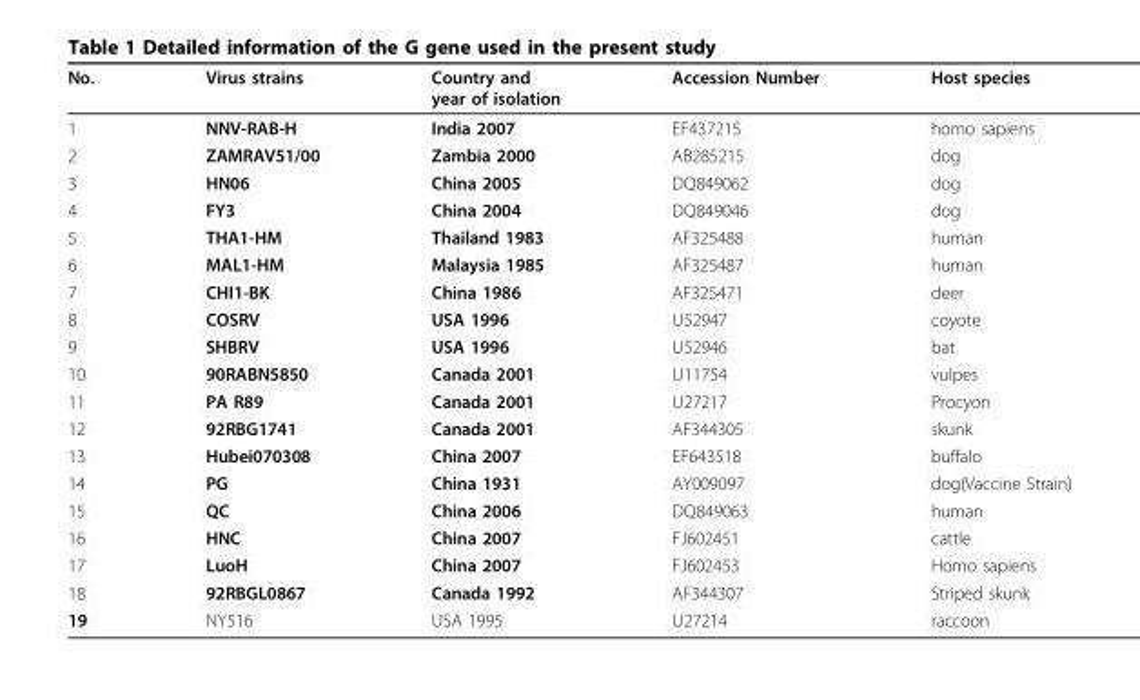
<table><thead><tr><td>No.</td><td>Virus strains</td><td>Country and year of isolation</td><td>Accession Number</td><td>Host species</td></tr></thead><tbody><tr><td>1</td><td>NNV-RAB-H</td><td>India 2007</td><td>EF437215</td><td>homo sapiens</td></tr><tr><td>2</td><td>ZAMRAV51/00</td><td>Zambia 2000</td><td>AB285215</td><td>dog</td></tr><tr><td>3</td><td>HN06</td><td>China 2005</td><td>DQ849062</td><td>dog</td></tr><tr><td>4</td><td>FY3</td><td>China 2004</td><td>DQ849046</td><td>dog</td></tr><tr><td>5</td><td>THA1-HM</td><td>Thailand 1983</td><td>AF325488</td><td>human</td></tr><tr><td>6</td><td>MAL1-HM</td><td>Malaysia 1985</td><td>AF325487</td><td>human</td></tr><tr><td>7</td><td>CHI1-BK</td><td>China 1986</td><td>AF325471</td><td>deer</td></tr><tr><td>8</td><td>COSRV</td><td>USA 1996</td><td>U52947</td><td>coyote</td></tr><tr><td>9</td><td>SHBRV</td><td>USA 1996</td><td>U52946</td><td>bat</td></tr><tr><td>10</td><td>90RABN5850</td><td>Canada 2001</td><td>U11754</td><td>vulpes</td></tr><tr><td>11</td><td>PA R89</td><td>Canada 2001</td><td>U27217</td><td>Procyon</td></tr><tr><td>12</td><td>92RBG1741</td><td>Canada 2001</td><td>AF344305</td><td>skunk</td></tr><tr><td>13</td><td>Hubei070308</td><td>China 2007</td><td>EF643518</td><td>buffalo</td></tr><tr><td>14</td><td>PG</td><td>China 1931</td><td>AY009097</td><td>dog(Vaccine Strain)</td></tr><tr><td>15</td><td>QC</td><td>China 2006</td><td>DQ849063</td><td>human</td></tr><tr><td>16</td><td>HNC</td><td>China 2007</td><td>FJ602451</td><td>cattle</td></tr><tr><td>17</td><td>LuoH</td><td>China 2007</td><td>FJ602453</td><td>Homo sapiens</td></tr><tr><td>18</td><td>92RBGL0867</td><td>Canada 1992</td><td>AF344307</td><td>Striped skunk</td></tr><tr><td>19</td><td>NY516</td><td>USA 1995</td><td>U27214</td><td>raccoon</td></tr></tbody></table>